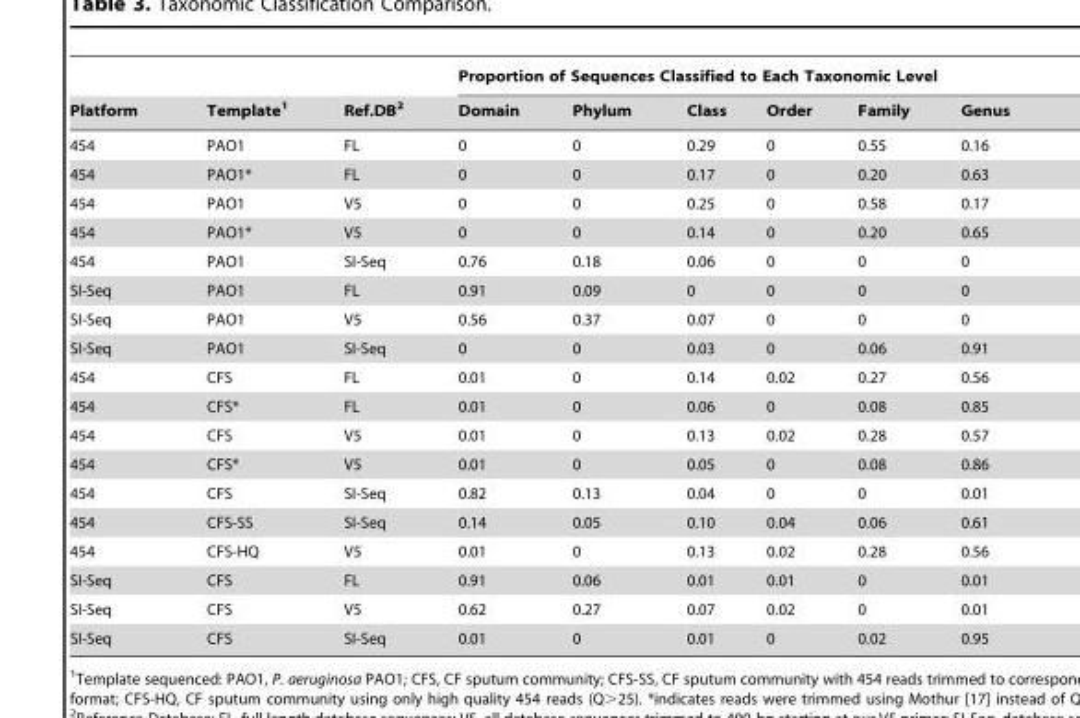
<table><thead><tr><td rowspan="2">Platform</td><td rowspan="2">Template<sup>1</sup></td><td rowspan="2">Ref.DB<sup>2</sup></td><td colspan="6">Proportion of Sequences Classified to Each Taxonomic Level</td></tr><tr><td>Domain</td><td>Phylum</td><td>Class</td><td>Order</td><td>Family</td><td>Genus</td></tr></thead><tbody><tr><td>454</td><td>PAO1</td><td>FL</td><td>0</td><td>0</td><td>0.29</td><td>0</td><td>0.55</td><td>0.16</td></tr><tr><td>454</td><td>PAO1*</td><td>FL</td><td>0</td><td>0</td><td>0.17</td><td>0</td><td>0.20</td><td>0.63</td></tr><tr><td>454</td><td>PAO1</td><td>V5</td><td>0</td><td>0</td><td>0.25</td><td>0</td><td>0.58</td><td>0.17</td></tr><tr><td>454</td><td>PAO1*</td><td>V5</td><td>0</td><td>0</td><td>0.14</td><td>0</td><td>0.20</td><td>0.65</td></tr><tr><td>454</td><td>PAO1</td><td>SI-Seq</td><td>0.76</td><td>0.18</td><td>0.06</td><td>0</td><td>0</td><td>0</td></tr><tr><td>SI-Seq</td><td>PAO1</td><td>FL</td><td>0.91</td><td>0.09</td><td>0</td><td>0</td><td>0</td><td>0</td></tr><tr><td>SI-Seq</td><td>PAO1</td><td>V5</td><td>0.56</td><td>0.37</td><td>0.07</td><td>0</td><td>0</td><td>0</td></tr><tr><td>SI-Seq</td><td>PAO1</td><td>SI-Seq</td><td>0</td><td>0</td><td>0.03</td><td>0</td><td>0.06</td><td>0.91</td></tr><tr><td>454</td><td>CFS</td><td>FL</td><td>0.01</td><td>0</td><td>0.14</td><td>0.02</td><td>0.27</td><td>0.56</td></tr><tr><td>454</td><td>CFS*</td><td>FL</td><td>0.01</td><td>0</td><td>0.06</td><td>0</td><td>0.08</td><td>0.85</td></tr><tr><td>454</td><td>CFS</td><td>V5</td><td>0.01</td><td>0</td><td>0.13</td><td>0.02</td><td>0.28</td><td>0.57</td></tr><tr><td>454</td><td>CFS*</td><td>V5</td><td>0.01</td><td>0</td><td>0.05</td><td>0</td><td>0.08</td><td>0.86</td></tr><tr><td>454</td><td>CFS</td><td>SI-Seq</td><td>0.82</td><td>0.13</td><td>0.04</td><td>0</td><td>0</td><td>0.01</td></tr><tr><td>454</td><td>CFS-SS</td><td>SI-Seq</td><td>0.14</td><td>0.05</td><td>0.10</td><td>0.04</td><td>0.06</td><td>0.61</td></tr><tr><td>454</td><td>CFS-HQ</td><td>V5</td><td>0.01</td><td>0</td><td>0.13</td><td>0.02</td><td>0.28</td><td>0.56</td></tr><tr><td>SI-Seq</td><td>CFS</td><td>FL</td><td>0.91</td><td>0.06</td><td>0.01</td><td>0.01</td><td>0</td><td>0.01</td></tr><tr><td>SI-Seq</td><td>CFS</td><td>V5</td><td>0.62</td><td>0.27</td><td>0.07</td><td>0.02</td><td>0</td><td>0.01</td></tr><tr><td>SI-Seq</td><td>CFS</td><td>SI-Seq</td><td>0.01</td><td>0</td><td>0.01</td><td>0</td><td>0.02</td><td>0.95</td></tr></tbody></table>